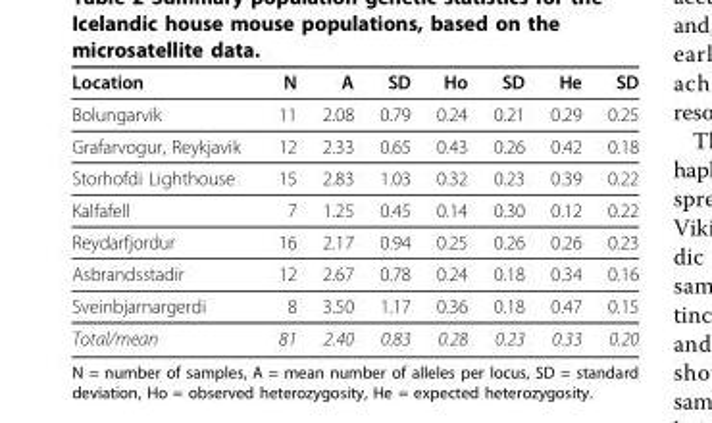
<table><thead><tr><td>Location</td><td>N</td><td>A</td><td>SD</td><td>Ho</td><td>SD</td><td>He</td><td>SD</td></tr></thead><tbody><tr><td>Bolungarvik</td><td>11</td><td>2.08</td><td>0.79</td><td>0.24</td><td>0.21</td><td>0.29</td><td>0.25</td></tr><tr><td>Grafarvogur, Reykjavik</td><td>12</td><td>2.33</td><td>0.65</td><td>0.43</td><td>0.26</td><td>0.42</td><td>0.18</td></tr><tr><td>Storhofdi Lighthouse</td><td>15</td><td>2.83</td><td>1.03</td><td>0.32</td><td>0.23</td><td>0.39</td><td>0.22</td></tr><tr><td>Kalfafell</td><td>7</td><td>1.25</td><td>0.45</td><td>0.14</td><td>0.30</td><td>0.12</td><td>0.22</td></tr><tr><td>Reydarfjordur</td><td>16</td><td>2.17</td><td>0.94</td><td>0.25</td><td>0.26</td><td>0.26</td><td>0.23</td></tr><tr><td>Asbrandsstadir</td><td>12</td><td>2.67</td><td>0.78</td><td>0.24</td><td>0.18</td><td>0.34</td><td>0.16</td></tr><tr><td>Sveinbjarnargerdi</td><td>8</td><td>3.50</td><td>1.17</td><td>0.36</td><td>0.18</td><td>0.47</td><td>0.15</td></tr><tr><td>Total/mean</td><td>81</td><td>2.40</td><td>0.83</td><td>0.28</td><td>0.23</td><td>0.33</td><td>0.20</td></tr></tbody></table>